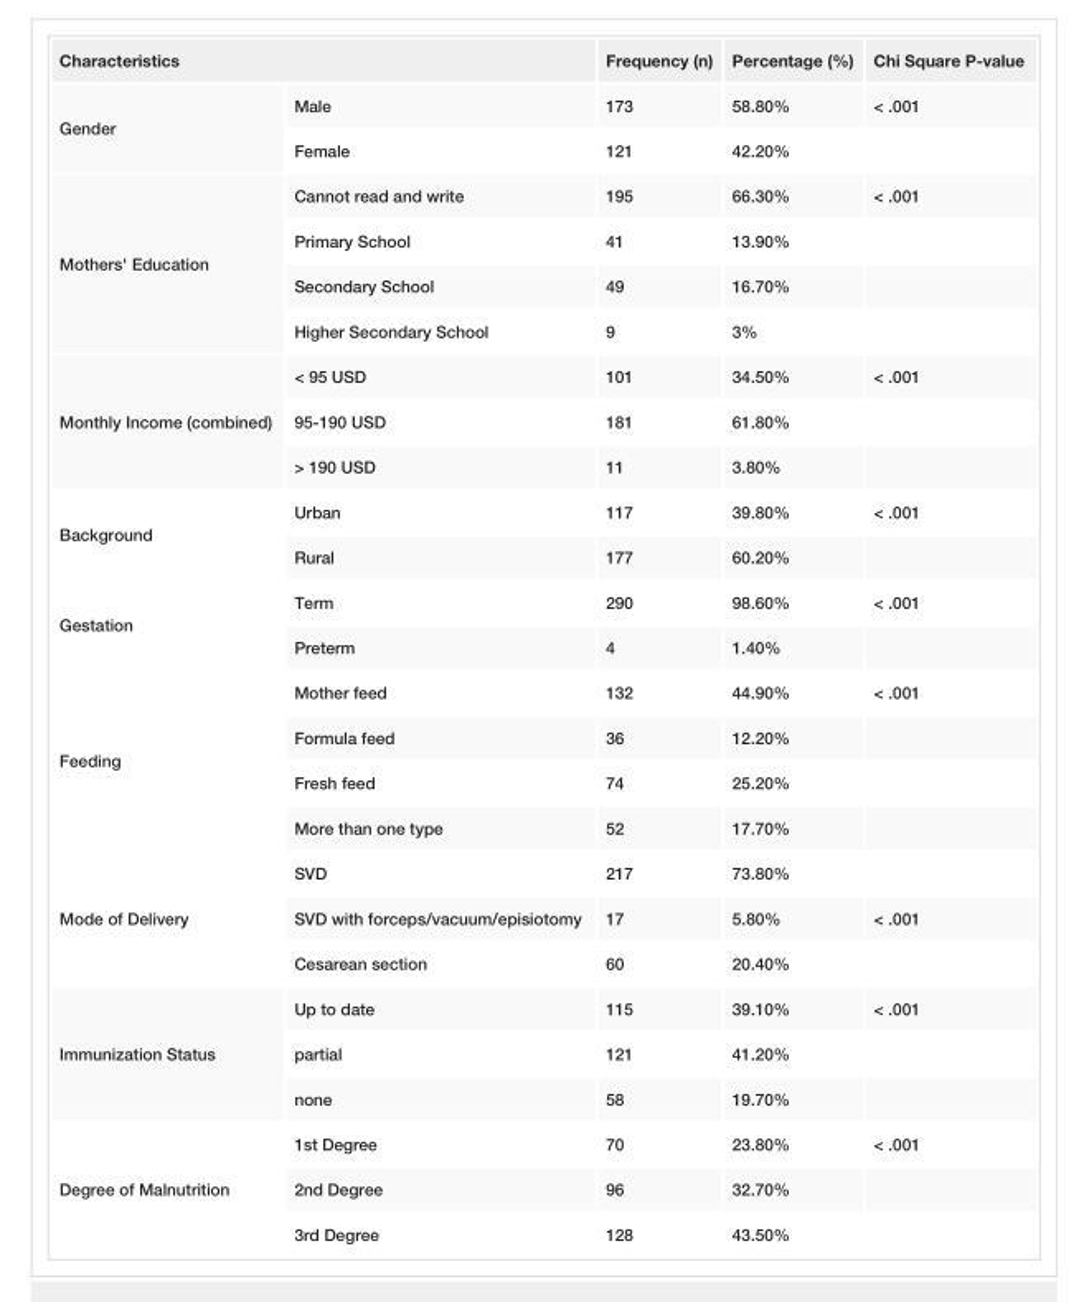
<table><tbody><tr><td colspan="2">Characteristics</td><td>Frequency (n)</td><td>Percentage (%)</td><td>Chi Square P-value</td></tr><tr><td rowspan="2">Gender</td><td>Male</td><td>173</td><td>58.80%</td><td>&lt; .001</td></tr><tr><td>Female</td><td>121</td><td>42.20%</td><td></td></tr><tr><td rowspan="4">Mothers&#x27; Education</td><td>Cannot read and write</td><td>195</td><td>66.30%</td><td>&lt; .001</td></tr><tr><td>Primary School</td><td>41</td><td>13.90%</td><td></td></tr><tr><td>Secondary School</td><td>49</td><td>16.70%</td><td></td></tr><tr><td>Higher Secondary School</td><td>9</td><td>3%</td><td></td></tr><tr><td rowspan="3">Monthly Income (combined)</td><td>&lt; 95 USD</td><td>101</td><td>34.50%</td><td>&lt; .001</td></tr><tr><td>95-190 USD</td><td>181</td><td>61.80%</td><td></td></tr><tr><td>&gt; 190 USD</td><td>11</td><td>3.80%</td><td></td></tr><tr><td rowspan="2">Background</td><td>Urban</td><td>117</td><td>39.80%</td><td>&lt; .001</td></tr><tr><td>Rural</td><td>177</td><td>60.20%</td><td></td></tr><tr><td rowspan="2">Gestation</td><td>Term</td><td>290</td><td>98.60%</td><td>&lt; .001</td></tr><tr><td>Preterm</td><td>4</td><td>1.40%</td><td></td></tr><tr><td rowspan="4">Feeding</td><td>Mother feed</td><td>132</td><td>44.90%</td><td>&lt; .001</td></tr><tr><td>Formula feed</td><td>36</td><td>12.20%</td><td></td></tr><tr><td>Fresh feed</td><td>74</td><td>25.20%</td><td></td></tr><tr><td>More than one type</td><td>52</td><td>17.70%</td><td></td></tr><tr><td rowspan="3">Mode of Delivery</td><td>SVD</td><td>217</td><td>73.80%</td><td></td></tr><tr><td>SVD with forceps/vacuum/episiotomy</td><td>17</td><td>5.80%</td><td>&lt; .001</td></tr><tr><td>Cesarean section</td><td>60</td><td>20.40%</td><td></td></tr><tr><td rowspan="3">Immunization Status</td><td>Up to date</td><td>115</td><td>39.10%</td><td>&lt; .001</td></tr><tr><td>partial</td><td>121</td><td>41.20%</td><td></td></tr><tr><td>none</td><td>58</td><td>19.70%</td><td></td></tr><tr><td rowspan="3">Degree of Malnutrition</td><td>1st Degree</td><td>70</td><td>23.80%</td><td>&lt; .001</td></tr><tr><td>2nd Degree</td><td>96</td><td>32.70%</td><td></td></tr><tr><td>3rd Degree</td><td>128</td><td>43.50%</td><td></td></tr></tbody></table>